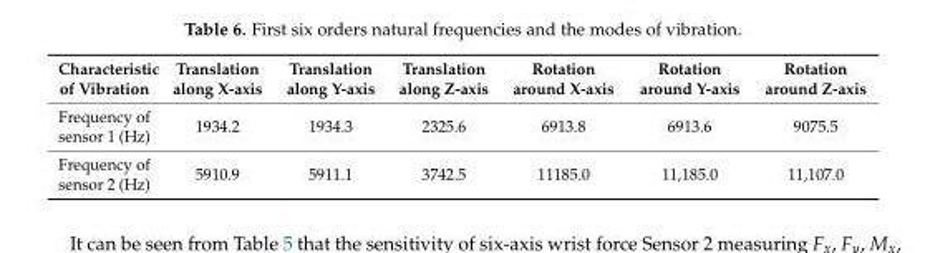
<table><thead><tr><td>Characteristic of Vibration</td><td>Translation along X-axis</td><td>Translation along Y-axis</td><td>Translation along Z-axis</td><td>Rotation around X-axis</td><td>Rotation around Y-axis</td><td>Rotation around Z-axis</td></tr></thead><tbody><tr><td>Frequency of sensor 1 (Hz)</td><td>1934.2</td><td>1934.3</td><td>2325.6</td><td>6913.8</td><td>6913.6</td><td>9075.5</td></tr><tr><td>Frequency of sensor 2 (Hz)</td><td>5910.9</td><td>5911.1</td><td>3742.5</td><td>11185.0</td><td>11,185.0</td><td>11,107.0</td></tr></tbody></table>